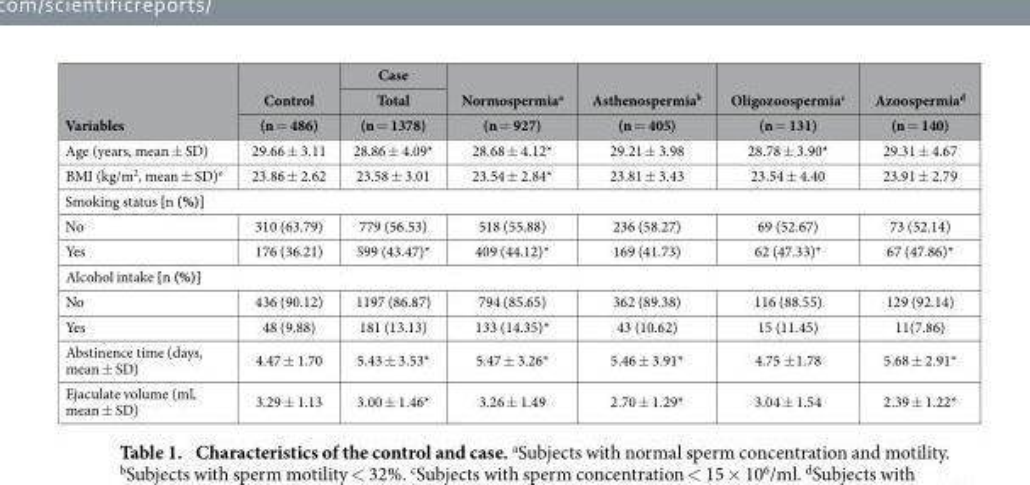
<table><thead><tr><td rowspan="3">Variables</td><td rowspan="3">Control (n = 486)</td><td rowspan="3">Case Total (n = 1378)</td><td rowspan="3">Normospermia<sup>a</sup> (n = 927)</td><td rowspan="3">Asthenospermia<sup>b</sup> (n = 405)</td><td rowspan="3">Oligozoospermia<sup>c</sup> (n = 131)</td><td rowspan="3">Azoospermia<sup>d</sup> (n = 140)</td></tr><tr></tr><tr></tr></thead><tbody><tr><td>Age (years, mean ± SD)</td><td>29.66 ± 3.11</td><td>28.86 ± 4.09*</td><td>28.68 ± 4.12*</td><td>29.21 ± 3.98</td><td>28.78 ± 3.90*</td><td>29.31 ± 4.67</td></tr><tr><td>BMI (kg/m2, mean ± SD)<sup>e</sup></td><td>23.86 ± 2.62</td><td>23.58 ± 3.01</td><td>23.54 ± 2.84*</td><td>23.81 ± 3.43</td><td>23.54 ± 4.40</td><td>23.91 ± 2.79</td></tr><tr><td colspan="7">Smoking status [n (%)]</td></tr><tr><td>No</td><td>310 (63.79)</td><td>779 (56.53)</td><td>518 (55.88)</td><td>236 (58.27)</td><td>69 (52.67)</td><td>73 (52.14)</td></tr><tr><td>Yes</td><td>176 (36.21)</td><td>599 (43.47)*</td><td>409 (44.12)*</td><td>169 (41.73)</td><td>62 (47.33)*</td><td>67 (47.86)*</td></tr><tr><td colspan="7">Alcohol intake [n (%)]</td></tr><tr><td>No</td><td>436 (90.12)</td><td>1197 (86.87)</td><td>794 (85.65)</td><td>362 (89.38)</td><td>116 (88.55)</td><td>129 (92.14)</td></tr><tr><td>Yes</td><td>48 (9.88)</td><td>181 (13.13)</td><td>133 (14.35)*</td><td>43 (10.62)</td><td>15 (11.45)</td><td>11(7.86)</td></tr><tr><td>Abstinence time (days, mean ± SD)</td><td>4.47 ± 1.70</td><td>5.43 ± 3.53*</td><td>5.47 ± 3.26*</td><td>5.46 ± 3.91*</td><td>4.75 ± 1.78</td><td>5.68 ± 2.91*</td></tr><tr><td>Ejaculate volume (ml, mean ± SD)</td><td>3.29 ± 1.13</td><td>3.00 ± 1.46*</td><td>3.26 ± 1.49</td><td>2.70 ± 1.29*</td><td>3.04 ± 1.54</td><td>2.39 ± 1.22*</td></tr></tbody></table>